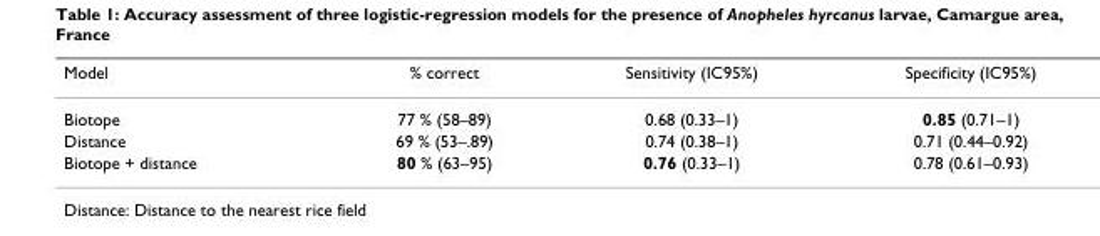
<table><thead><tr><td>Model</td><td>% correct</td><td>Sensitivity (IC95%)</td><td>Specificity (IC95%)</td></tr></thead><tbody><tr><td>Biotope</td><td>77 % (58–89)</td><td>0.68 (0.33–1)</td><td>0.85 (0.71–1)</td></tr><tr><td>Distance</td><td>69 % (53–.89)</td><td>0.74 (0.38–1)</td><td>0.71 (0.44–0.92)</td></tr><tr><td>Biotope + distance</td><td>80 % (63–95)</td><td>0.76 (0.33–1)</td><td>0.78 (0.61–0.93)</td></tr></tbody></table>